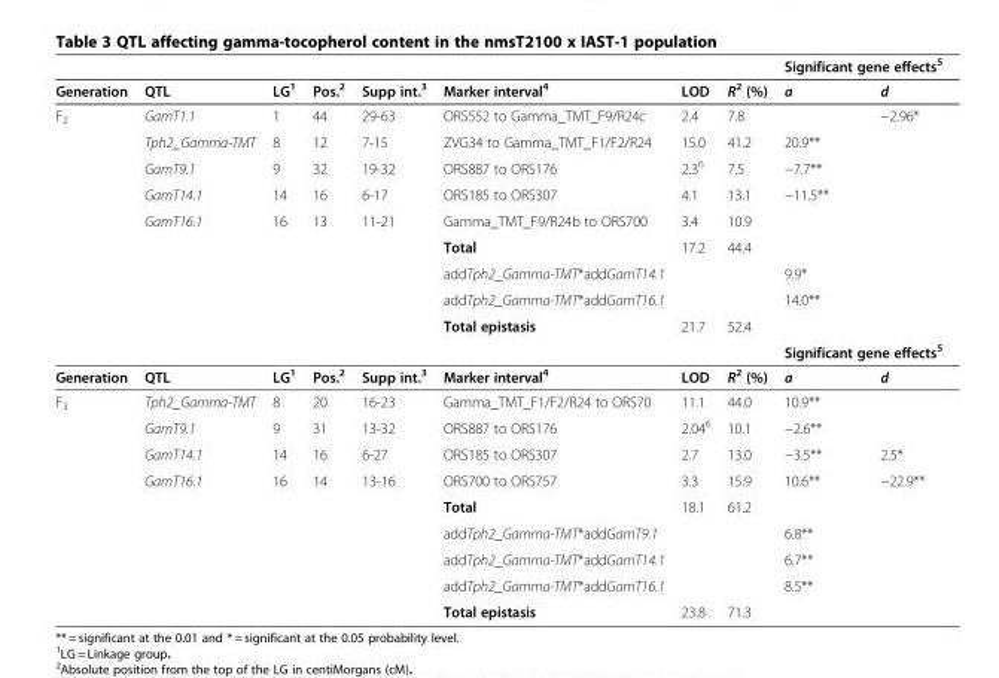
<table><thead><tr><td rowspan="2">Generation</td><td rowspan="2">QTL</td><td rowspan="2">LG<sup>1</sup></td><td rowspan="2">Pos.<sup>2</sup></td><td rowspan="2">Supp int.<sup>3</sup></td><td rowspan="2">Marker interval<sup>4</sup></td><td rowspan="2">LOD</td><td rowspan="2">R<sup>2</sup> (%)</td><td colspan="2">Significant gene effects<sup>5</sup></td></tr><tr><td>a</td><td>d</td></tr></thead><tbody><tr><td rowspan="10">F<sub>2</sub></td><td>GamT1.1</td><td>1</td><td>44</td><td>29-63</td><td>ORS552 to Gamma_TMT_F9/R24c</td><td>2.4</td><td>7.8</td><td></td><td>−2.96*</td></tr><tr><td>Tph2_Gamma-TMT</td><td>8</td><td>12</td><td>7-15</td><td>ZVG34 to Gamma_TMT_F1/F2/R24</td><td>15.0</td><td>41.2</td><td>20.9**</td><td></td></tr><tr><td>GamT9.1</td><td>9</td><td>32</td><td>19-32</td><td>ORS887 to ORS176</td><td>2.3<sup>6</sup></td><td>7.5</td><td>−7.7**</td><td></td></tr><tr><td>GamT14.1</td><td>14</td><td>16</td><td>6-17</td><td>ORS185 to ORS307</td><td>4.1</td><td>13.1</td><td>−11.5**</td><td></td></tr><tr><td>GamT16.1</td><td>16</td><td>13</td><td>11-21</td><td>Gamma_TMT_F9/R24b to ORS700</td><td>3.4</td><td>10.9</td><td></td><td></td></tr><tr><td></td><td></td><td></td><td></td><td>Total</td><td>17.2</td><td>44.4</td><td></td><td></td></tr><tr><td></td><td></td><td></td><td></td><td>addTph2_Gamma-TMT*addGamT14.1</td><td></td><td></td><td>9.9*</td><td></td></tr><tr><td></td><td></td><td></td><td></td><td>addTph2_Gamma-TMT*addGamT16.1</td><td></td><td></td><td>14.0**</td><td></td></tr><tr><td></td><td></td><td></td><td></td><td>Total epistasis</td><td>21.7</td><td>52.4</td><td></td><td></td></tr><tr><td></td><td></td><td></td><td></td><td></td><td></td><td></td><td colspan="2">Significant gene effects<sup>5</sup></td></tr><tr><td>Generation</td><td>QTL</td><td>LG<sup>1</sup></td><td>Pos.<sup>2</sup></td><td>Supp int.<sup>3</sup></td><td>Marker interval<sup>4</sup></td><td>LOD</td><td>R<sup>2</sup> (%)</td><td>a</td><td>d</td></tr><tr><td rowspan="9">F<sub>3</sub></td><td>Tph2_Gamma-TMT</td><td>8</td><td>20</td><td>16-23</td><td>Gamma_TMT_F1/F2/R24 to ORS70</td><td>11.1</td><td>44.0</td><td>10.9**</td><td></td></tr><tr><td>GamT9.1</td><td>9</td><td>31</td><td>13-32</td><td>ORS887 to ORS176</td><td>2.04<sup>6</sup></td><td>10.1</td><td>−2.6**</td><td></td></tr><tr><td>GamT14.1</td><td>14</td><td>16</td><td>6-27</td><td>ORS185 to ORS307</td><td>2.7</td><td>13.0</td><td>−3.5**</td><td>2.5*</td></tr><tr><td>GamT16.1</td><td>16</td><td>14</td><td>13-16</td><td>ORS700 to ORS757</td><td>3.3</td><td>15.9</td><td>10.6**</td><td>−22.9**</td></tr><tr><td></td><td></td><td></td><td></td><td>Total</td><td>18.1</td><td>61.2</td><td></td><td></td></tr><tr><td></td><td></td><td></td><td></td><td>addTph2_Gamma-TMT*addGamT9.1</td><td></td><td></td><td>6.8**</td><td></td></tr><tr><td></td><td></td><td></td><td></td><td>addTph2_Gamma-TMT*addGamT14.1</td><td></td><td></td><td>6.7**</td><td></td></tr><tr><td></td><td></td><td></td><td></td><td>addTph2_Gamma-TMT*addGamT16.1</td><td></td><td></td><td>8.5**</td><td></td></tr><tr><td></td><td></td><td></td><td></td><td>Total epistasis</td><td>23.8</td><td>71.3</td><td></td><td></td></tr></tbody></table>